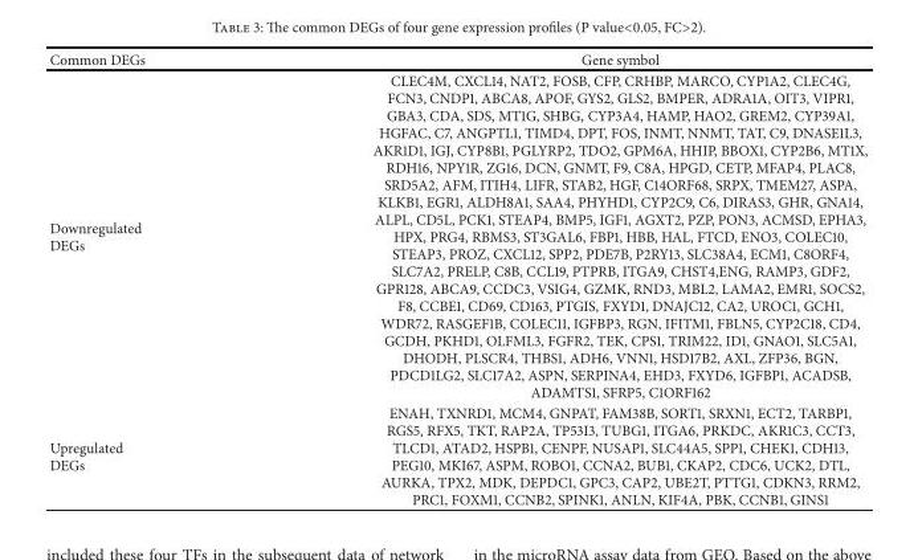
<table><thead><tr><td>Common DEGs</td><td>Gene symbol</td></tr></thead><tbody><tr><td>Downregulated DEGs</td><td>CLEC4M, CXCL14, NAT2, FOSB, CFP, CRHBP, MARCO, CYP1A2, CLEC4G, FCN3, CNDP1, ABCA8, APOF, GYS2, GLS2, BMPER, ADRA1A, OIT3, VIPR1, GBA3, CDA, SDS, MT1G, SHBG, CYP3A4, HAMP, HAO2, GREM2, CYP39A1, HGFAC, C7, ANGPTL1, TIMD4, DPT, FOS, INMT, NNMT, TAT, C9, DNASE1L3, AKR1D1, IGJ, CYP8B1, PGLYRP2, TDO2, GPM6A, HHIP, BBOX1, CYP2B6, MT1X, RDH16, NPY1R, ZG16, DCN, GNMT, F9, C8A, HPGD, CETP, MFAP4, PLAC8, SRD5A2, AFM, ITIH4, LIFR, STAB2, HGF, C14ORF68, SRPX, TMEM27, ASPA, KLKB1, EGR1, ALDH8A1, SAA4, PHYHD1, CYP2C9, C6, DIRAS3, GHR, GNA14, ALPL, CD5L, PCK1, STEAP4, BMP5, IGF1, AGXT2, PZP, PON3, ACMSD, EPHA3, HPX, PRG4, RBMS3, ST3GAL6, FBP1, HBB, HAL, FTCD, ENO3, COLEC10, STEAP3, PROZ, CXCL12, SPP2, PDE7B, P2RY13, SLC38A4, ECM1, C8ORF4, SLC7A2, PRELP, C8B, CCL19, PTPRB, ITGA9, CHST4,ENG, RAMP3, GDF2, GPR128, ABCA9, CCDC3, VSIG4, GZMK, RND3, MBL2, LAMA2, EMR1, SOCS2, F8, CCBE1, CD69, CD163, PTGIS, FXYD1, DNAJC12, CA2, UROC1, GCH1, WDR72, RASGEF1B, COLEC11, IGFBP3, RGN, IFITM1, FBLN5, CYP2C18, CD4, GCDH, PKHD1, OLFML3, FGFR2, TEK, CPS1, TRIM22, ID1, GNAO1, SLC5A1, DHODH, PLSCR4, THBS1, ADH6, VNN1, HSD17B2, AXL, ZFP36, BGN, PDCD1LG2, SLC17A2, ASPN, SERPINA4, EHD3, FXYD6, IGFBP1, ACADSB, ADAMTS1, SFRP5, C1ORF162</td></tr><tr><td>Upregulated DEGs</td><td>ENAH, TXNRD1, MCM4, GNPAT, FAM38B, SORT1, SRXN1, ECT2, TARBP1, RGS5, RFX5, TKT, RAP2A, TP53I3, TUBG1, ITGA6, PRKDC, AKR1C3, CCT3, TLCD1, ATAD2, HSPB1, CENPF, NUSAP1, SLC44A5, SPP1, CHEK1, CDH13, PEG10, MKI67, ASPM, ROBO1, CCNA2, BUB1, CKAP2, CDC6, UCK2, DTL, AURKA, TPX2, MDK, DEPDC1, GPC3, CAP2, UBE2T, PTTG1, CDKN3, RRM2, PRC1, FOXM1, CCNB2, SPINK1, ANLN, KIF4A, PBK, CCNB1, GINS1</td></tr></tbody></table>